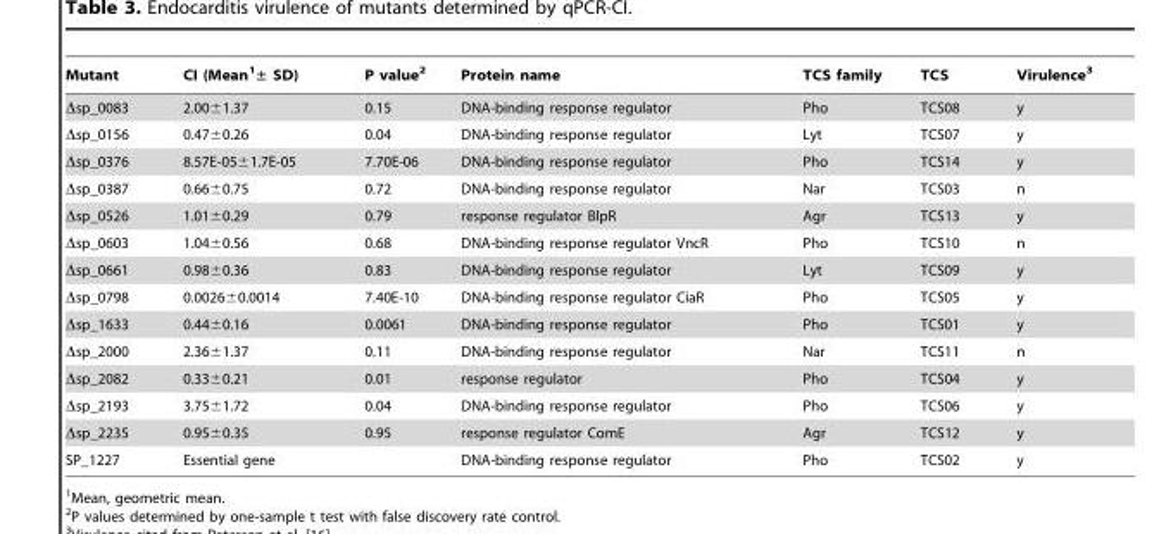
<table><thead><tr><td>Mutant</td><td>CI (Mean<sup>1</sup>± SD)</td><td>P value<sup>2</sup></td><td>Protein name</td><td>TCS family</td><td>TCS</td><td>Virulence<sup>3</sup></td></tr></thead><tbody><tr><td>Δsp_0083</td><td>2.00±1.37</td><td>0.15</td><td>DNA-binding response regulator</td><td>Pho</td><td>TCS08</td><td>y</td></tr><tr><td>Δsp_0156</td><td>0.47±0.26</td><td>0.04</td><td>DNA-binding response regulator</td><td>Lyt</td><td>TCS07</td><td>y</td></tr><tr><td>Δsp_0376</td><td>8.57E-05±1.7E-05</td><td>7.70E-06</td><td>DNA-binding response regulator</td><td>Pho</td><td>TCS14</td><td>y</td></tr><tr><td>Δsp_0387</td><td>0.66±0.75</td><td>0.72</td><td>DNA-binding response regulator</td><td>Nar</td><td>TCS03</td><td>n</td></tr><tr><td>Δsp_0526</td><td>1.01±0.29</td><td>0.79</td><td>response regulator BlpR</td><td>Agr</td><td>TCS13</td><td>y</td></tr><tr><td>Δsp_0603</td><td>1.04±0.56</td><td>0.68</td><td>DNA-binding response regulator VncR</td><td>Pho</td><td>TCS10</td><td>n</td></tr><tr><td>Δsp_0661</td><td>0.98±0.36</td><td>0.83</td><td>DNA-binding response regulator</td><td>Lyt</td><td>TCS09</td><td>y</td></tr><tr><td>Δsp_0798</td><td>0.0026±0.0014</td><td>7.40E-10</td><td>DNA-binding response regulator CiaR</td><td>Pho</td><td>TCS05</td><td>y</td></tr><tr><td>Δsp_1633</td><td>0.44±0.16</td><td>0.0061</td><td>DNA-binding response regulator</td><td>Pho</td><td>TCS01</td><td>y</td></tr><tr><td>Δsp_2000</td><td>2.36±1.37</td><td>0.11</td><td>DNA-binding response regulator</td><td>Nar</td><td>TCS11</td><td>n</td></tr><tr><td>Δsp_2082</td><td>0.33±0.21</td><td>0.01</td><td>response regulator</td><td>Pho</td><td>TCS04</td><td>y</td></tr><tr><td>Δsp_2193</td><td>3.75±1.72</td><td>0.04</td><td>DNA-binding response regulator</td><td>Pho</td><td>TCS06</td><td>y</td></tr><tr><td>Δsp_2235</td><td>0.95±0.35</td><td>0.95</td><td>response regulator ComE</td><td>Agr</td><td>TCS12</td><td>y</td></tr><tr><td>SP_1227</td><td>Essential gene</td><td></td><td>DNA-binding response regulator</td><td>Pho</td><td>TCS02</td><td>y</td></tr></tbody></table>